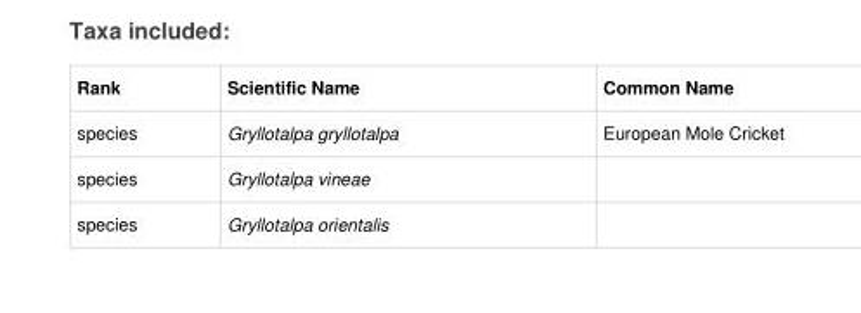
<table><thead><tr><td>Rank</td><td>Scientific Name</td><td>Common Name</td></tr></thead><tbody><tr><td>species</td><td>Gryllotalpa gryllotalpa</td><td>European Mole Cricket</td></tr><tr><td>species</td><td>Gryllotalpa vineae</td><td></td></tr><tr><td>species</td><td>Gryllotalpa orientalis</td><td></td></tr></tbody></table>